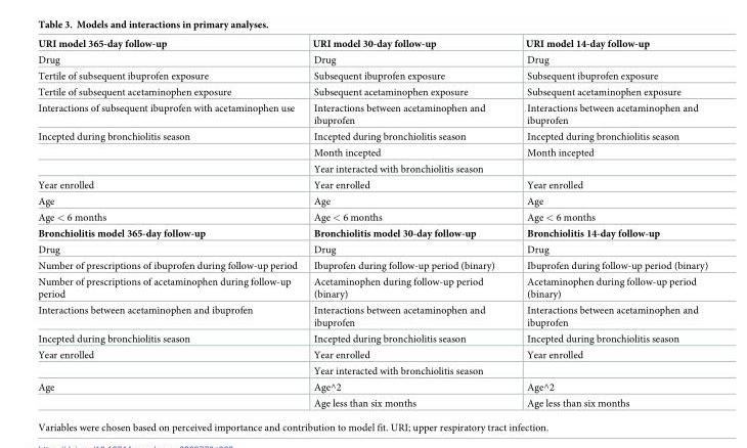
<table><thead><tr><td>URI model 365-day follow-up</td><td>URI model 30-day follow-up</td><td>URI model 14-day follow-up</td></tr></thead><tbody><tr><td>Drug</td><td>Drug</td><td>Drug</td></tr><tr><td>Tertile of subsequent ibuprofen exposure</td><td>Subsequent ibuprofen exposure</td><td>Subsequent ibuprofen exposure</td></tr><tr><td>Tertile of subsequent acetaminophen exposure</td><td>Subsequent acetaminophen exposure</td><td>Subsequent acetaminophen exposure</td></tr><tr><td>Interactions of subsequent ibuprofen with acetaminophen use</td><td>Interactions between acetaminophen and ibuprofen</td><td>Interactions between acetaminophen and ibuprofen</td></tr><tr><td rowspan="3">Incepted during bronchiolitis season</td><td>Incepted during bronchiolitis season</td><td>Incepted during bronchiolitis season</td></tr><tr><td>Month incepted</td><td>Month incepted</td></tr><tr><td>Year interacted with bronchiolitis season</td><td></td></tr><tr><td>Year enrolled</td><td>Year enrolled</td><td>Year enrolled</td></tr><tr><td>Age</td><td>Age</td><td>Age</td></tr><tr><td>Age &lt; 6 months</td><td>Age &lt; 6 months</td><td>Age &lt; 6 months</td></tr><tr><td>Bronchiolitis model 365-day follow-up</td><td>Bronchiolitis model 30-day follow-up</td><td>Bronchiolitis 14-day follow-up</td></tr><tr><td>Drug</td><td>Drug</td><td>Drug</td></tr><tr><td>Number of prescriptions of ibuprofen during follow-up period</td><td>Ibuprofen during follow-up period (binary)</td><td>Ibuprofen during follow-up period (binary)</td></tr><tr><td>Number of prescriptions of acetaminophen during follow-up period</td><td>Acetaminophen during follow-up period (binary)</td><td>Acetaminophen during follow-up period (binary)</td></tr><tr><td>Interactions between acetaminophen and ibuprofen</td><td>Interactions between acetaminophen and ibuprofen</td><td>Interactions between acetaminophen and ibuprofen</td></tr><tr><td>Incepted during bronchiolitis season</td><td>Incepted during bronchiolitis season</td><td>Incepted during bronchiolitis season</td></tr><tr><td rowspan="2">Year enrolled</td><td>Year enrolled</td><td>Year enrolled</td></tr><tr><td>Year interacted with bronchiolitis season</td><td></td></tr><tr><td rowspan="2">Age</td><td>Age^2</td><td>Age^2</td></tr><tr><td>Age less than six months</td><td>Age less than six months</td></tr></tbody></table>